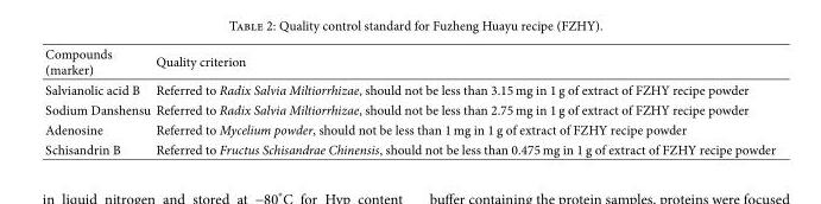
<table><thead><tr><td>Compounds (marker)</td><td>Quality criterion</td></tr></thead><tbody><tr><td>Salvianolic acid B</td><td>Referred to Radix Salvia Miltiorrhizae, should not be less than 3.15 mg in 1 g of extract of FZHY recipe powder</td></tr><tr><td>Sodium Danshensu</td><td>Referred to Radix Salvia Miltiorrhizae, should not be less than 2.75 mg in 1 g of extract of FZHY recipe powder</td></tr><tr><td>Adenosine</td><td>Referred to Mycelium powder, should not be less than 1 mg in 1 g of extract of FZHY recipe powder</td></tr><tr><td>Schisandrin B</td><td>Referred to Fructus Schisandrae Chinensis, should not be less than 0.475 mg in 1 g of extract of FZHY recipe powder</td></tr></tbody></table>